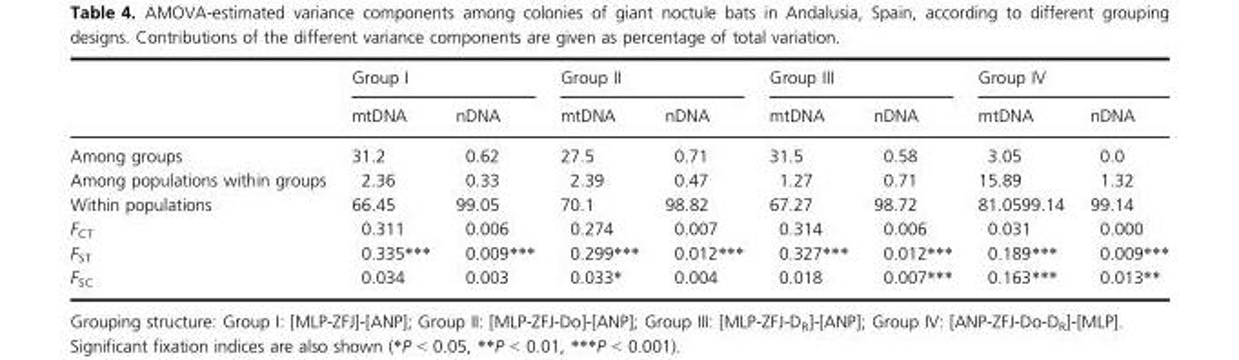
<table><thead><tr><td rowspan="2"></td><td colspan="2">Group I</td><td colspan="2">Group II</td><td colspan="2">Group III</td><td colspan="2">Group IV</td></tr><tr><td>mtDNA</td><td>nDNA</td><td>mtDNA</td><td>nDNA</td><td>mtDNA</td><td>nDNA</td><td>mtDNA</td><td>nDNA</td></tr></thead><tbody><tr><td>Among groups</td><td>31.2</td><td>0.62</td><td>27.5</td><td>0.71</td><td>31.5</td><td>0.58</td><td>3.05</td><td>0.0</td></tr><tr><td>Among populations within groups</td><td>2.36</td><td>0.33</td><td>2.39</td><td>0.47</td><td>1.27</td><td>0.71</td><td>15.89</td><td>1.32</td></tr><tr><td>Within populations</td><td>66.45</td><td>99.05</td><td>70.1</td><td>98.82</td><td>67.27</td><td>98.72</td><td>81.0599.14</td><td>99.14</td></tr><tr><td>F<sub>CT</sub></td><td>0.311</td><td>0.006</td><td>0.274</td><td>0.007</td><td>0.314</td><td>0.006</td><td>0.031</td><td>0.000</td></tr><tr><td>F<sub>ST</sub></td><td>0.335***</td><td>0.009***</td><td>0.299***</td><td>0.012***</td><td>0.327***</td><td>0.012***</td><td>0.189***</td><td>0.009***</td></tr><tr><td>F<sub>SC</sub></td><td>0.034</td><td>0.003</td><td>0.033*</td><td>0.004</td><td>0.018</td><td>0.007***</td><td>0.163***</td><td>0.013**</td></tr></tbody></table>